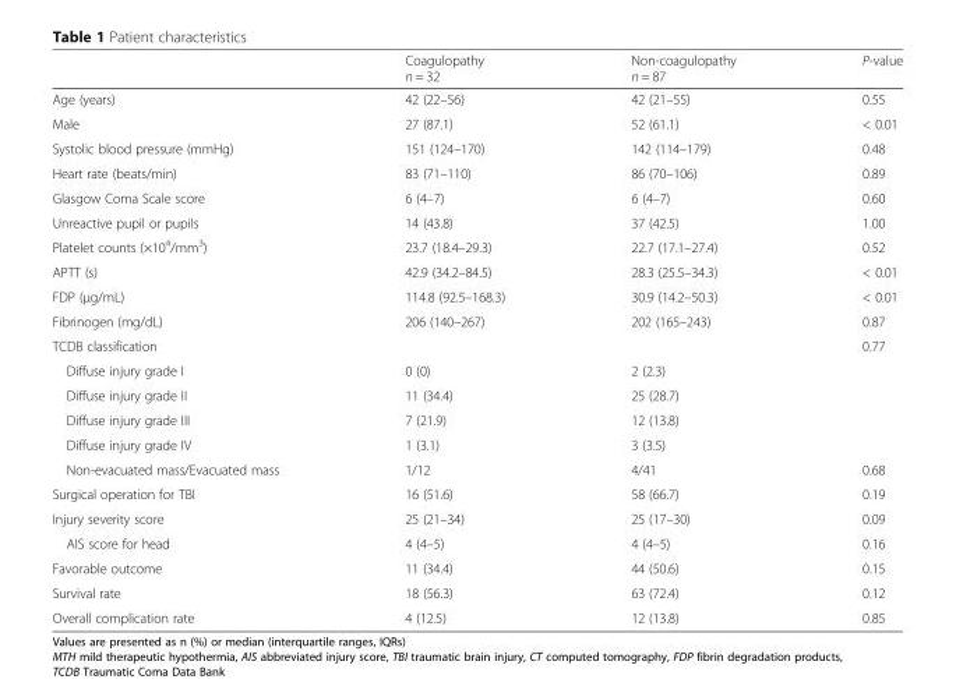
<table><thead><tr><td></td><td>Coagulopathy n = 32</td><td>Non-coagulopathy n = 87</td><td>P-value</td></tr></thead><tbody><tr><td>Age (years)</td><td>42 (22–56)</td><td>42 (21–55)</td><td>0.55</td></tr><tr><td>Male</td><td>27 (87.1)</td><td>52 (61.1)</td><td>&lt; 0.01</td></tr><tr><td>Systolic blood pressure (mmHg)</td><td>151 (124–170)</td><td>142 (114–179)</td><td>0.48</td></tr><tr><td>Heart rate (beats/min)</td><td>83 (71–110)</td><td>86 (70–106)</td><td>0.89</td></tr><tr><td>Glasgow Coma Scale score</td><td>6 (4–7)</td><td>6 (4–7)</td><td>0.60</td></tr><tr><td>Unreactive pupil or pupils</td><td>14 (43.8)</td><td>37 (42.5)</td><td>1.00</td></tr><tr><td>Platelet counts (×10<sup>4</sup>/mm<sup>3</sup>)</td><td>23.7 (18.4–29.3)</td><td>22.7 (17.1–27.4)</td><td>0.52</td></tr><tr><td>APTT (s)</td><td>42.9 (34.2–84.5)</td><td>28.3 (25.5–34.3)</td><td>&lt; 0.01</td></tr><tr><td>FDP (μg/mL)</td><td>114.8 (92.5–168.3)</td><td>30.9 (14.2–50.3)</td><td>&lt; 0.01</td></tr><tr><td>Fibrinogen (mg/dL)</td><td>206 (140–267)</td><td>202 (165–243)</td><td>0.87</td></tr><tr><td>TCDB classification</td><td></td><td></td><td>0.77</td></tr><tr><td>Diffuse injury grade I</td><td>0 (0)</td><td>2 (2.3)</td><td></td></tr><tr><td>Diffuse injury grade II</td><td>11 (34.4)</td><td>25 (28.7)</td><td></td></tr><tr><td>Diffuse injury grade III</td><td>7 (21.9)</td><td>12 (13.8)</td><td></td></tr><tr><td>Diffuse injury grade IV</td><td>1 (3.1)</td><td>3 (3.5)</td><td></td></tr><tr><td>Non-evacuated mass/Evacuated mass</td><td>1/12</td><td>4/41</td><td>0.68</td></tr><tr><td>Surgical operation for TBI</td><td>16 (51.6)</td><td>58 (66.7)</td><td>0.19</td></tr><tr><td>Injury severity score</td><td>25 (21–34)</td><td>25 (17–30)</td><td>0.09</td></tr><tr><td>AIS score for head</td><td>4 (4–5)</td><td>4 (4–5)</td><td>0.16</td></tr><tr><td>Favorable outcome</td><td>11 (34.4)</td><td>44 (50.6)</td><td>0.15</td></tr><tr><td>Survival rate</td><td>18 (56.3)</td><td>63 (72.4)</td><td>0.12</td></tr><tr><td>Overall complication rate</td><td>4 (12.5)</td><td>12 (13.8)</td><td>0.85</td></tr></tbody></table>